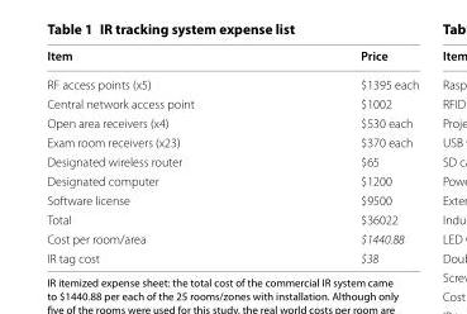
<table><thead><tr><td>Item</td><td>Price</td></tr></thead><tbody><tr><td>RF access points (x5)</td><td>$1395 each</td></tr><tr><td>Central network access point</td><td>$1002</td></tr><tr><td>Open area receivers (x4)</td><td>$530 each</td></tr><tr><td>Exam room receivers (x23)</td><td>$370 each</td></tr><tr><td>Designated wireless router</td><td>$65</td></tr><tr><td>Designated computer</td><td>$1200</td></tr><tr><td>Software license</td><td>$9500</td></tr><tr><td>Total</td><td>$36022</td></tr><tr><td>Cost per room/area</td><td>$1440.88</td></tr><tr><td>IR tag cost</td><td>$38</td></tr></tbody></table>